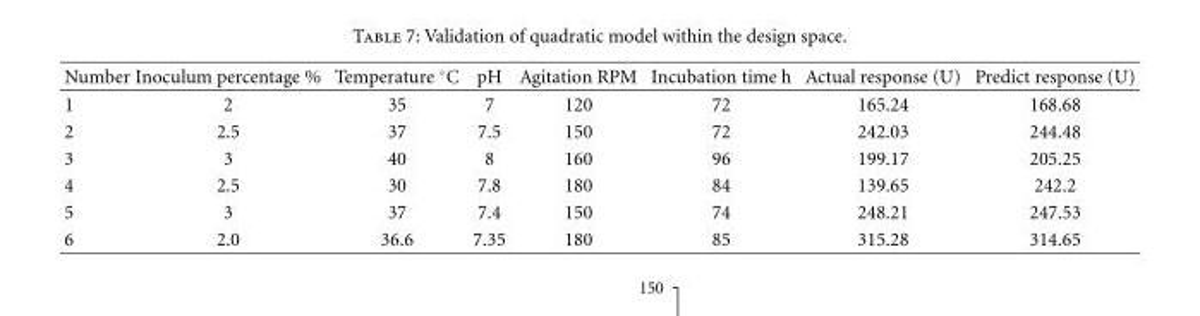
<table><thead><tr><td>Number</td><td>Inoculum percentage %</td><td>Temperature ◦C</td><td>pH</td><td>Agitation RPM</td><td>Incubation time h</td><td>Actual response (U)</td><td>Predict response (U)</td></tr></thead><tbody><tr><td>1</td><td>2</td><td>35</td><td>7</td><td>120</td><td>72</td><td>165.24</td><td>168.68</td></tr><tr><td>2</td><td>2.5</td><td>37</td><td>7.5</td><td>150</td><td>72</td><td>242.03</td><td>244.48</td></tr><tr><td>3</td><td>3</td><td>40</td><td>8</td><td>160</td><td>96</td><td>199.17</td><td>205.25</td></tr><tr><td>4</td><td>2.5</td><td>30</td><td>7.8</td><td>180</td><td>84</td><td>139.65</td><td>242.2</td></tr><tr><td>5</td><td>3</td><td>37</td><td>7.4</td><td>150</td><td>74</td><td>248.21</td><td>247.53</td></tr><tr><td>6</td><td>2.0</td><td>36.6</td><td>7.35</td><td>180</td><td>85</td><td>315.28</td><td>314.65</td></tr></tbody></table>